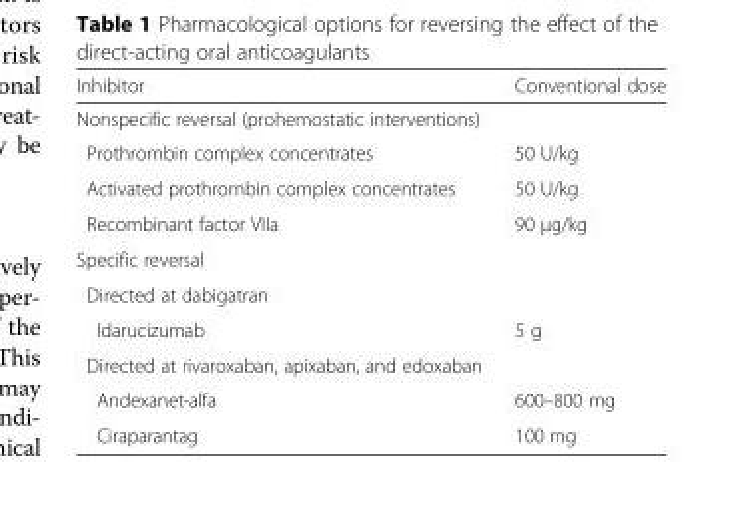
<table><thead><tr><td>Inhibitor</td><td>Conventional dose</td></tr></thead><tbody><tr><td colspan="2">Nonspecific reversal (prohemostatic interventions)</td></tr><tr><td>Prothrombin complex concentrates</td><td>50 U/kg</td></tr><tr><td>Activated prothrombin complex concentrates</td><td>50 U/kg</td></tr><tr><td>Recombinant factor VIIa</td><td>90 μg/kg</td></tr><tr><td colspan="2">Specific reversal</td></tr><tr><td colspan="2">Directed at dabigatran</td></tr><tr><td>Idarucizumab</td><td>5 g</td></tr><tr><td colspan="2">Directed at rivaroxaban, apixaban, and edoxaban</td></tr><tr><td>Andexanet-alfa</td><td>600–800 mg</td></tr><tr><td>Ciraparantag</td><td>100 mg</td></tr></tbody></table>